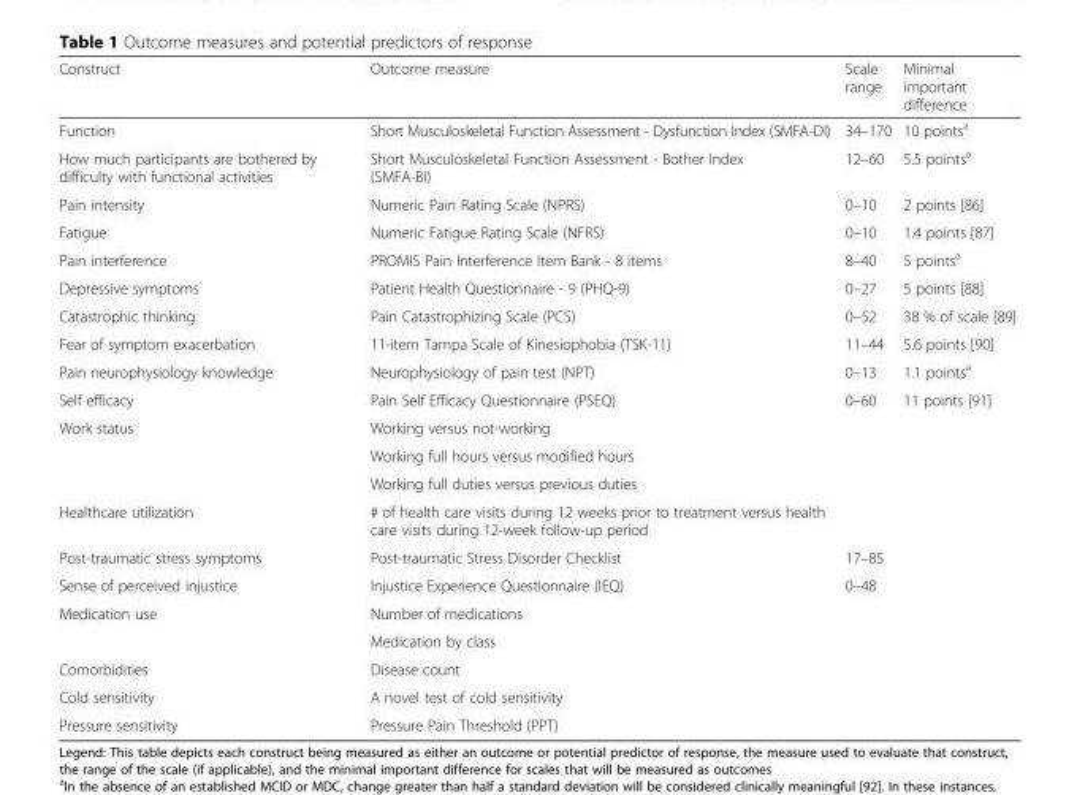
<table><thead><tr><td>Construct</td><td>Outcome measure</td><td>Scale range</td><td>Minimal important difference</td></tr></thead><tbody><tr><td>Function</td><td>Short Musculoskeletal Function Assessment - Dysfunction Index (SMFA-DI)</td><td>34–170</td><td>10 points<sup>a</sup></td></tr><tr><td>How much participants are bothered by difficulty with functional activities</td><td>Short Musculoskeletal Function Assessment - Bother Index (SMFA-BI)</td><td>12–60</td><td>5.5 points<sup>a</sup></td></tr><tr><td>Pain intensity</td><td>Numeric Pain Rating Scale (NPRS)</td><td>0–10</td><td>2 points [86]</td></tr><tr><td>Fatigue</td><td>Numeric Fatigue Rating Scale (NFRS)</td><td>0–10</td><td>1.4 points [87]</td></tr><tr><td>Pain interference</td><td>PROMIS Pain Interference Item Bank - 8 items</td><td>8–40</td><td>5 points<sup>a</sup></td></tr><tr><td>Depressive symptoms</td><td>Patient Health Questionnaire - 9 (PHQ-9)</td><td>0–27</td><td>5 points [88]</td></tr><tr><td>Catastrophic thinking</td><td>Pain Catastrophizing Scale (PCS)</td><td>0–52</td><td>38 % of scale [89]</td></tr><tr><td>Fear of symptom exacerbation</td><td>11-item Tampa Scale of Kinesiophobia (TSK-11)</td><td>11–44</td><td>5.6 points [90]</td></tr><tr><td>Pain neurophysiology knowledge</td><td>Neurophysiology of pain test (NPT)</td><td>0–13</td><td>1.1 points<sup>a</sup></td></tr><tr><td>Self efficacy</td><td>Pain Self Efficacy Questionnaire (PSEQ)</td><td>0–60</td><td>11 points [91]</td></tr><tr><td rowspan="3">Work status</td><td>Working versus not-working</td><td></td><td></td></tr><tr><td>Working full hours versus modified hours</td><td></td><td></td></tr><tr><td>Working full duties versus previous duties</td><td></td><td></td></tr><tr><td>Healthcare utilization</td><td># of health care visits during 12 weeks prior to treatment versus health care visits during 12-week follow-up period</td><td></td><td></td></tr><tr><td>Post-traumatic stress symptoms</td><td>Post-traumatic Stress Disorder Checklist</td><td>17–85</td><td></td></tr><tr><td>Sense of perceived injustice</td><td>Injustice Experience Questionnaire (IEQ)</td><td>0–48</td><td></td></tr><tr><td rowspan="2">Medication use</td><td>Number of medications</td><td></td><td></td></tr><tr><td>Medication by class</td><td></td><td></td></tr><tr><td>Comorbidities</td><td>Disease count</td><td></td><td></td></tr><tr><td>Cold sensitivity</td><td>A novel test of cold sensitivity</td><td></td><td></td></tr><tr><td>Pressure sensitivity</td><td>Pressure Pain Threshold (PPT)</td><td></td><td></td></tr></tbody></table>